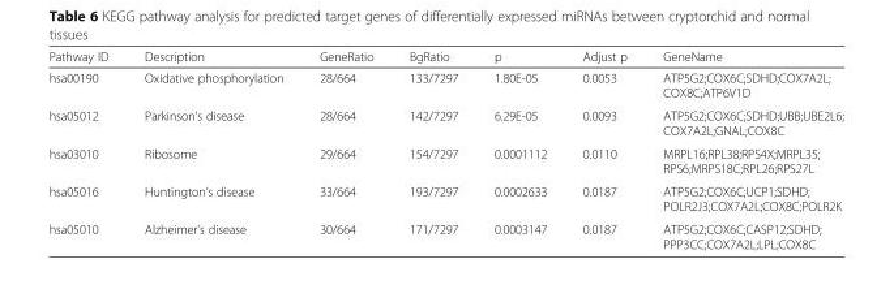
<table><thead><tr><td>Pathway ID</td><td>Description</td><td>GeneRatio</td><td>BgRatio</td><td>p</td><td>Adjust p</td><td>GeneName</td></tr></thead><tbody><tr><td>hsa00190</td><td>Oxidative phosphorylation</td><td>28/664</td><td>133/7297</td><td>1.80E-05</td><td>0.0053</td><td>ATP5G2;COX6C;SDHD;COX7A2L; COX8C;ATP6V1D</td></tr><tr><td>hsa05012</td><td>Parkinson’s disease</td><td>28/664</td><td>142/7297</td><td>6.29E-05</td><td>0.0093</td><td>ATP5G2;COX6C;SDHD;UBB;UBE2L6; COX7A2L;GNAL;COX8C</td></tr><tr><td>hsa03010</td><td>Ribosome</td><td>29/664</td><td>154/7297</td><td>0.0001112</td><td>0.0110</td><td>MRPL16;RPL38;RPS4X;MRPL35; RPS6;MRPS18C;RPL26;RPS27L</td></tr><tr><td>hsa05016</td><td>Huntington’s disease</td><td>33/664</td><td>193/7297</td><td>0.0002633</td><td>0.0187</td><td>ATP5G2;COX6C;UCP1;SDHD; POLR2J3;COX7A2L;COX8C;POLR2K</td></tr><tr><td>hsa05010</td><td>Alzheimer’s disease</td><td>30/664</td><td>171/7297</td><td>0.0003147</td><td>0.0187</td><td>ATP5G2;COX6C;CASP12;SDHD; PPP3CC;COX7A2L;LPL;COX8C</td></tr></tbody></table>